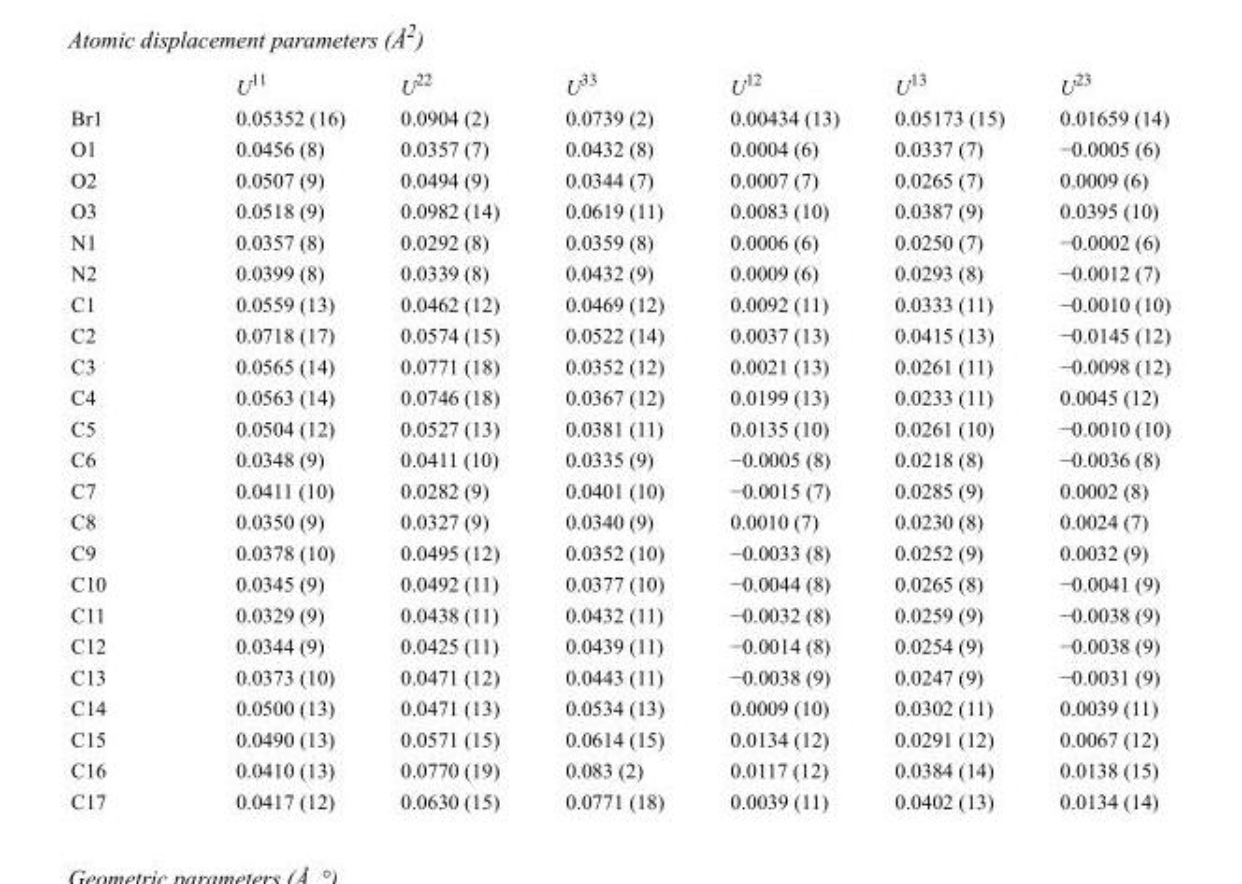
<table><thead><tr><td></td><td>U<sup>11</sup></td><td>U<sup>22</sup></td><td>U<sup>33</sup></td><td>U<sup>12</sup></td><td>U<sup>13</sup></td><td>U<sup>23</sup></td></tr></thead><tbody><tr><td>Br1</td><td>0.05352 (16)</td><td>0.0904 (2)</td><td>0.0739 (2)</td><td>0.00434 (13)</td><td>0.05173 (15)</td><td>0.01659 (14)</td></tr><tr><td>O1</td><td>0.0456 (8)</td><td>0.0357 (7)</td><td>0.0432 (8)</td><td>0.0004 (6)</td><td>0.0337 (7)</td><td>−0.0005 (6)</td></tr><tr><td>O2</td><td>0.0507 (9)</td><td>0.0494 (9)</td><td>0.0344 (7)</td><td>0.0007 (7)</td><td>0.0265 (7)</td><td>0.0009 (6)</td></tr><tr><td>O3</td><td>0.0518 (9)</td><td>0.0982 (14)</td><td>0.0619 (11)</td><td>0.0083 (10)</td><td>0.0387 (9)</td><td>0.0395 (10)</td></tr><tr><td>N1</td><td>0.0357 (8)</td><td>0.0292 (8)</td><td>0.0359 (8)</td><td>0.0006 (6)</td><td>0.0250 (7)</td><td>−0.0002 (6)</td></tr><tr><td>N2</td><td>0.0399 (8)</td><td>0.0339 (8)</td><td>0.0432 (9)</td><td>0.0009 (6)</td><td>0.0293 (8)</td><td>−0.0012 (7)</td></tr><tr><td>C1</td><td>0.0559 (13)</td><td>0.0462 (12)</td><td>0.0469 (12)</td><td>0.0092 (11)</td><td>0.0333 (11)</td><td>−0.0010 (10)</td></tr><tr><td>C2</td><td>0.0718 (17)</td><td>0.0574 (15)</td><td>0.0522 (14)</td><td>0.0037 (13)</td><td>0.0415 (13)</td><td>−0.0145 (12)</td></tr><tr><td>C3</td><td>0.0565 (14)</td><td>0.0771 (18)</td><td>0.0352 (12)</td><td>0.0021 (13)</td><td>0.0261 (11)</td><td>−0.0098 (12)</td></tr><tr><td>C4</td><td>0.0563 (14)</td><td>0.0746 (18)</td><td>0.0367 (12)</td><td>0.0199 (13)</td><td>0.0233 (11)</td><td>0.0045 (12)</td></tr><tr><td>C5</td><td>0.0504 (12)</td><td>0.0527 (13)</td><td>0.0381 (11)</td><td>0.0135 (10)</td><td>0.0261 (10)</td><td>−0.0010 (10)</td></tr><tr><td>C6</td><td>0.0348 (9)</td><td>0.0411 (10)</td><td>0.0335 (9)</td><td>−0.0005 (8)</td><td>0.0218 (8)</td><td>−0.0036 (8)</td></tr><tr><td>C7</td><td>0.0411 (10)</td><td>0.0282 (9)</td><td>0.0401 (10)</td><td>−0.0015 (7)</td><td>0.0285 (9)</td><td>0.0002 (8)</td></tr><tr><td>C8</td><td>0.0350 (9)</td><td>0.0327 (9)</td><td>0.0340 (9)</td><td>0.0010 (7)</td><td>0.0230 (8)</td><td>0.0024 (7)</td></tr><tr><td>C9</td><td>0.0378 (10)</td><td>0.0495 (12)</td><td>0.0352 (10)</td><td>−0.0033 (8)</td><td>0.0252 (9)</td><td>0.0032 (9)</td></tr><tr><td>C10</td><td>0.0345 (9)</td><td>0.0492 (11)</td><td>0.0377 (10)</td><td>−0.0044 (8)</td><td>0.0265 (8)</td><td>−0.0041 (9)</td></tr><tr><td>C11</td><td>0.0329 (9)</td><td>0.0438 (11)</td><td>0.0432 (11)</td><td>−0.0032 (8)</td><td>0.0259 (9)</td><td>−0.0038 (9)</td></tr><tr><td>C12</td><td>0.0344 (9)</td><td>0.0425 (11)</td><td>0.0439 (11)</td><td>−0.0014 (8)</td><td>0.0254 (9)</td><td>−0.0038 (9)</td></tr><tr><td>C13</td><td>0.0373 (10)</td><td>0.0471 (12)</td><td>0.0443 (11)</td><td>−0.0038 (9)</td><td>0.0247 (9)</td><td>−0.0031 (9)</td></tr><tr><td>C14</td><td>0.0500 (13)</td><td>0.0471 (13)</td><td>0.0534 (13)</td><td>0.0009 (10)</td><td>0.0302 (11)</td><td>0.0039 (11)</td></tr><tr><td>C15</td><td>0.0490 (13)</td><td>0.0571 (15)</td><td>0.0614 (15)</td><td>0.0134 (12)</td><td>0.0291 (12)</td><td>0.0067 (12)</td></tr><tr><td>C16</td><td>0.0410 (13)</td><td>0.0770 (19)</td><td>0.083 (2)</td><td>0.0117 (12)</td><td>0.0384 (14)</td><td>0.0138 (15)</td></tr><tr><td>C17</td><td>0.0417 (12)</td><td>0.0630 (15)</td><td>0.0771 (18)</td><td>0.0039 (11)</td><td>0.0402 (13)</td><td>0.0134 (14)</td></tr></tbody></table>